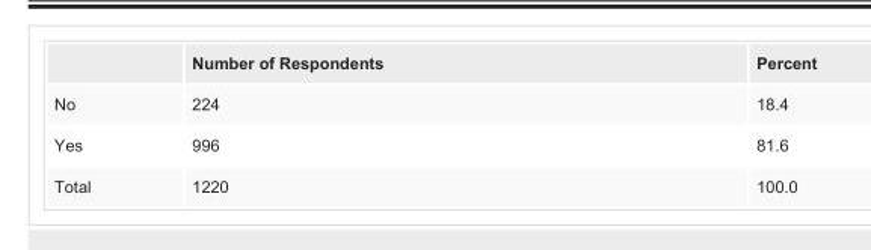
<table><thead><tr><td></td><td>Number of Respondents</td><td>Percent</td></tr></thead><tbody><tr><td>No</td><td>224</td><td>18.4</td></tr><tr><td>Yes</td><td>996</td><td>81.6</td></tr><tr><td>Total</td><td>1220</td><td>100.0</td></tr></tbody></table>